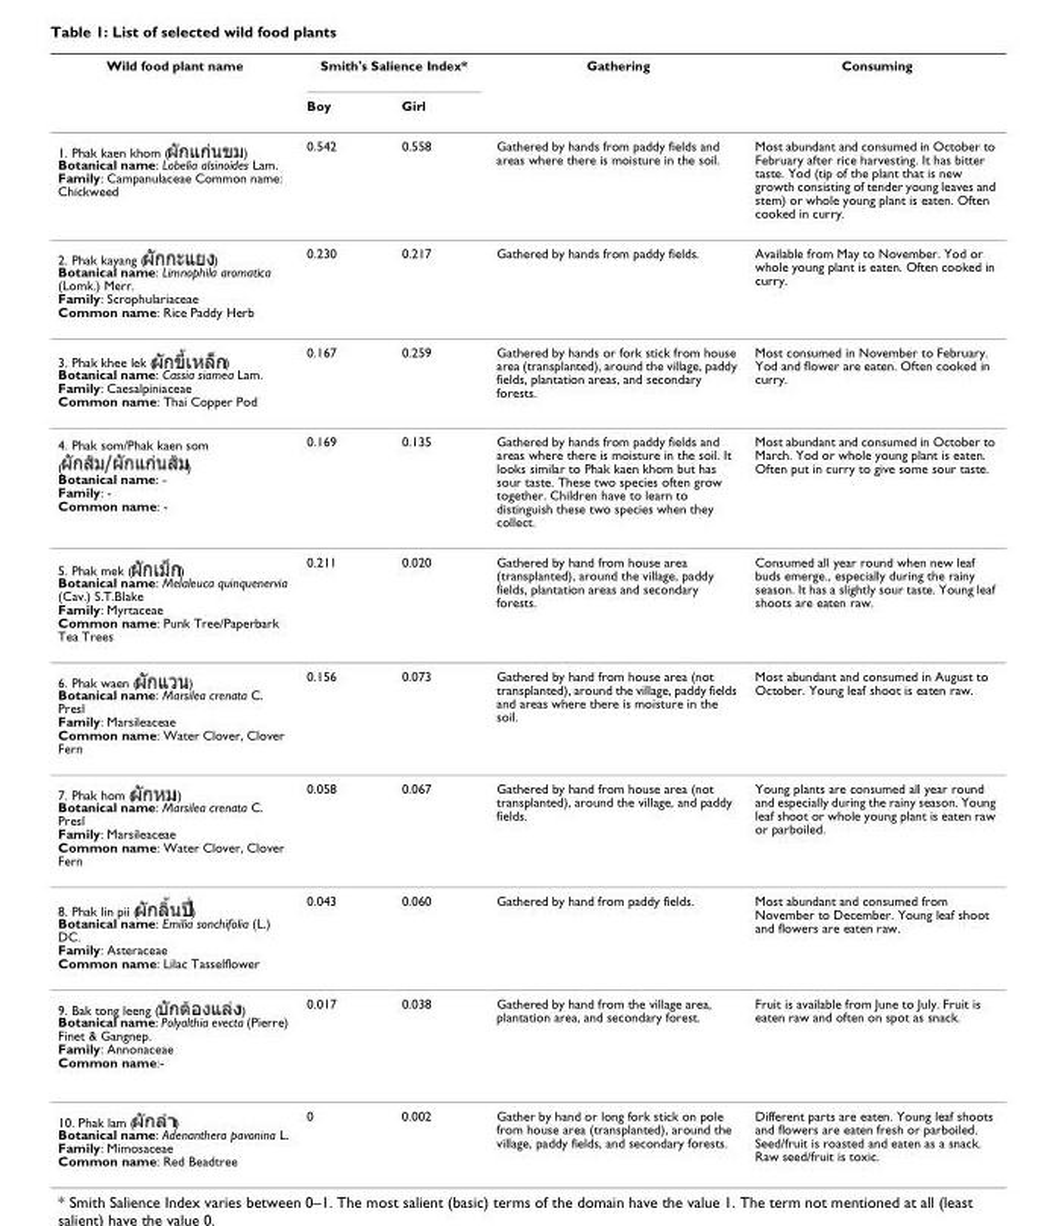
<table><thead><tr><td rowspan="2">Wild food plant name</td><td colspan="2">Smith&#x27;s Salience Index*</td><td rowspan="2">Gathering</td><td rowspan="2">Consuming</td></tr><tr><td>Boy</td><td>Girl</td></tr></thead><tbody><tr><td>1. Phak kaen khom ( ) Botanical name: Lobelia alsinoides Lam. Family: Campanulaceae Common name: Chickweed</td><td>0.542</td><td>0.558</td><td>Gathered by hands from paddy fields and areas where there is moisture in the soil.</td><td>Most abundant and consumed in October to February after rice harvesting. It has bitter taste. Yod (tip of the plant that is new growth consisting of tender young leaves and stem) or whole young plant is eaten. Often cooked in curry.</td></tr><tr><td>2. Phak kayang ( ) Botanical name: Limnophila aromatica (Lomk.) Merr. Family: Scrophulariaceae Common name: Rice Paddy Herb</td><td>0.230</td><td>0.217</td><td>Gathered by hands from paddy fields.</td><td>Available from May to November. Yod or whole young plant is eaten. Often cooked in curry.</td></tr><tr><td>3. Phak khee lek ( ) Botanical name: Cassia siamea Lam. Family: Caesalpiniaceae Common name: Thai Copper Pod</td><td>0.167</td><td>0.259</td><td>Gathered by hands or fork stick from house area (transplanted), around the village, paddy fields, plantation areas, and secondary forests.</td><td>Most consumed in November to February. Yod and flower are eaten. Often cooked in curry.</td></tr><tr><td>4. Phak som/Phak kaen som ( ) Botanical name: - Family: - Common name: -</td><td>0.169</td><td>0.135</td><td>Gathered by hands from paddy fields and areas where there is moisture in the soil. It looks similar to Phak kaen khom but has sour taste. These two species often grow together. Children have to learn to distinguish these two species when they collect.</td><td>Most abundant and consumed in October to March. Yod or whole young plant is eaten. Often put in curry to give some sour taste.</td></tr><tr><td>5. Phak mek ( ) Botanical name: Melaleuca quinquenervia (Cav.) S.T.Blake Family: Myrtaceae Common name: Punk Tree/Paperbark Tea Trees</td><td>0.211</td><td>0.020</td><td>Gathered by hand from house area (transplanted), around the village, paddy fields, plantation areas and secondary forests.</td><td>Consumed all year round when new leaf buds emerge., especially during the rainy season. It has a slightly sour taste. Young leaf shoots are eaten raw.</td></tr><tr><td>6. Phak waen ( ) Botanical name: Marsilea crenata C. Presl Family: Marsileaceae Common name: Water Clover, Clover Fern</td><td>0.156</td><td>0.073</td><td>Gathered by hand from house area (not transplanted), around the village, paddy fields and areas where there is moisture in the soil.</td><td>Most abundant and consumed in August to October. Young leaf shoot is eaten raw.</td></tr><tr><td>7. Phak hom ( ) Botanical name: Marsilea crenata C. Presl Family: Marsileaceae Common name: Water Clover, Clover Fern</td><td>0.058</td><td>0.067</td><td>Gathered by hand from house area (not transplanted), around the village, and paddy fields.</td><td>Young plants are consumed all year round and especially during the rainy season. Young leaf shoot or whole young plant is eaten raw or parboiled.</td></tr><tr><td>8. Phak lin pii ( ) Botanical name: Emilia sonchifolia (L.) DC. Family: Asteraceae Common name: Lilac Tasselflower</td><td>0.043</td><td>0.060</td><td>Gathered by hand from paddy fields.</td><td>Most abundant and consumed from November to December. Young leaf shoot and flowers are eaten raw.</td></tr><tr><td>9. Bak tong leeng ( ) Botanical name: Polyalthia evecta (Pierre) Finet &amp; Gangnep. Family: Annonaceae Common name:-</td><td>0.017</td><td>0.038</td><td>Gathered by hand from the village area, plantation area, and secondary forest.</td><td>Fruit is available from June to July. Fruit is eaten raw and often on spot as snack.</td></tr><tr><td>10. Phak lam ( ) Botanical name: Adenanthera pavonina L. Family: Mimosaceae Common name: Red Beadtree</td><td>0</td><td>0.002</td><td>Gather by hand or long fork stick on pole from house area (transplanted), around the village, paddy fields, and secondary forests.</td><td>Different parts are eaten. Young leaf shoots and flowers are eaten fresh or parboiled. Seed/fruit is roasted and eaten as a snack. Raw seed/fruit is toxic.</td></tr></tbody></table>